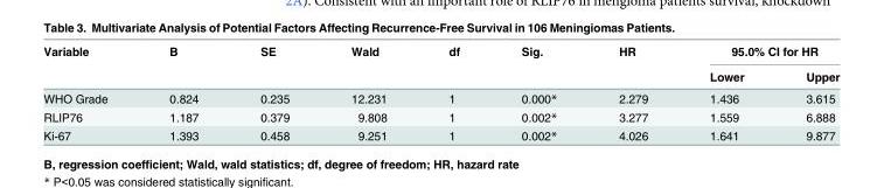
<table><thead><tr><td rowspan="2">Variable</td><td rowspan="2">B</td><td rowspan="2">SE</td><td rowspan="2">Wald</td><td rowspan="2">df</td><td rowspan="2">Sig.</td><td rowspan="2">HR</td><td colspan="2">95.0% CI for HR</td></tr><tr><td>Lower</td><td>Upper</td></tr></thead><tbody><tr><td>WHO Grade</td><td>0.824</td><td>0.235</td><td>12.231</td><td>1</td><td>0.000*</td><td>2.279</td><td>1.436</td><td>3.615</td></tr><tr><td>RLIP76</td><td>1.187</td><td>0.379</td><td>9.808</td><td>1</td><td>0.002*</td><td>3.277</td><td>1.559</td><td>6.888</td></tr><tr><td>Ki-67</td><td>1.393</td><td>0.458</td><td>9.251</td><td>1</td><td>0.002*</td><td>4.026</td><td>1.641</td><td>9.877</td></tr></tbody></table>